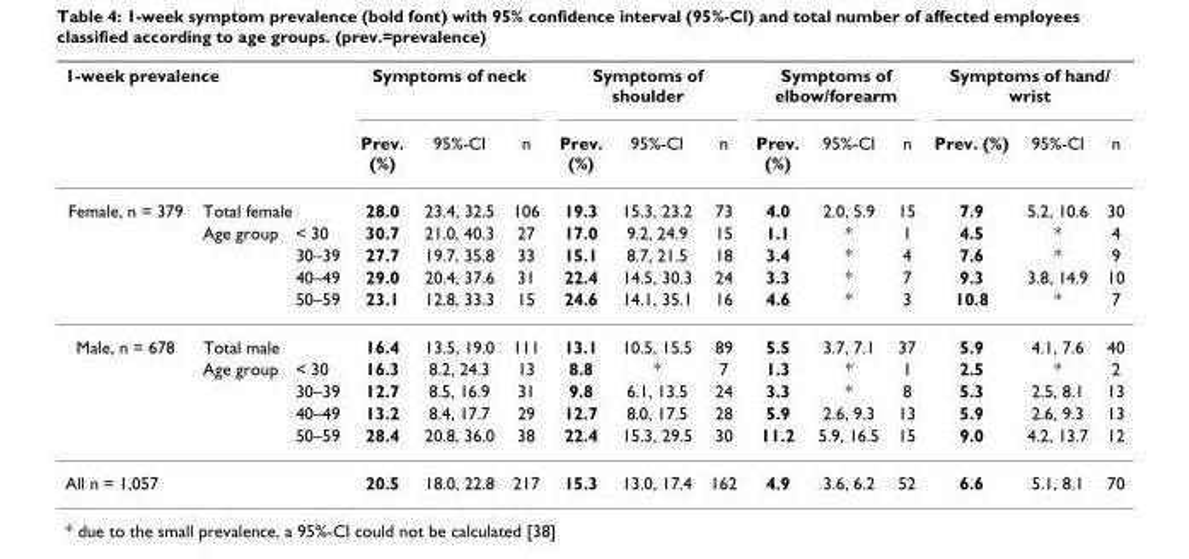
<table><thead><tr><td colspan="3">1-week prevalence</td><td colspan="3">Symptoms of neck</td><td colspan="3">Symptoms of shoulder</td><td colspan="3">Symptoms of elbow/forearm</td><td colspan="3">Symptoms of hand/ wrist</td></tr><tr><td></td><td></td><td></td><td>Prev. (%)</td><td>95%-CI</td><td>n</td><td>Prev. (%)</td><td>95%-CI</td><td>n</td><td>Prev. (%)</td><td>95%-CI</td><td>n</td><td>Prev. (%)</td><td>95%-CI</td><td>n</td></tr></thead><tbody><tr><td rowspan="5">Female, n = 379</td><td colspan="2">Total female</td><td>28.0</td><td>23.4, 32.5</td><td>106</td><td>19.3</td><td>15.3, 23.2</td><td>73</td><td>4.0</td><td>2.0, 5.9</td><td>15</td><td>7.9</td><td>5.2, 10.6</td><td>30</td></tr><tr><td>Age group</td><td>&lt; 30</td><td>30.7</td><td>21.0, 40.3</td><td>27</td><td>17.0</td><td>9.2, 24.9</td><td>15</td><td>1.1</td><td>*</td><td>1</td><td>4.5</td><td>*</td><td>4</td></tr><tr><td></td><td>30–39</td><td>27.7</td><td>19.7, 35.8</td><td>33</td><td>15.1</td><td>8.7, 21.5</td><td>18</td><td>3.4</td><td>*</td><td>4</td><td>7.6</td><td>*</td><td>9</td></tr><tr><td></td><td>40–49</td><td>29.0</td><td>20.4, 37.6</td><td>31</td><td>22.4</td><td>14.5, 30.3</td><td>24</td><td>3.3</td><td>*</td><td>7</td><td>9.3</td><td>3.8, 14.9</td><td>10</td></tr><tr><td></td><td>50–59</td><td>23.1</td><td>12.8, 33.3</td><td>15</td><td>24.6</td><td>14.1, 35.1</td><td>16</td><td>4.6</td><td>*</td><td>3</td><td>10.8</td><td>*</td><td>7</td></tr><tr><td rowspan="5">Male, n = 678</td><td colspan="2">Total male</td><td>16.4</td><td>13.5, 19.0</td><td>111</td><td>13.1</td><td>10.5, 15.5</td><td>89</td><td>5.5</td><td>3.7, 7.1</td><td>37</td><td>5.9</td><td>4.1, 7.6</td><td>40</td></tr><tr><td>Age group</td><td>&lt; 30</td><td>16.3</td><td>8.2, 24.3</td><td>13</td><td>8.8</td><td>*</td><td>7</td><td>1.3</td><td>*</td><td>1</td><td>2.5</td><td>*</td><td>2</td></tr><tr><td></td><td>30–39</td><td>12.7</td><td>8.5, 16.9</td><td>31</td><td>9.8</td><td>6.1, 13.5</td><td>24</td><td>3.3</td><td>*</td><td>8</td><td>5.3</td><td>2.5, 8.1</td><td>13</td></tr><tr><td></td><td>40–49</td><td>13.2</td><td>8.4, 17.7</td><td>29</td><td>12.7</td><td>8.0, 17.5</td><td>28</td><td>5.9</td><td>2.6, 9.3</td><td>13</td><td>5.9</td><td>2.6, 9.3</td><td>13</td></tr><tr><td></td><td>50–59</td><td>28.4</td><td>20.8, 36.0</td><td>38</td><td>22.4</td><td>15.3, 29.5</td><td>30</td><td>11.2</td><td>5.9, 16.5</td><td>15</td><td>9.0</td><td>4.2, 13.7</td><td>12</td></tr><tr><td colspan="3">All n = 1,057</td><td>20.5</td><td>18.0, 22.8</td><td>217</td><td>15.3</td><td>13.0, 17.4</td><td>162</td><td>4.9</td><td>3.6, 6.2</td><td>52</td><td>6.6</td><td>5.1, 8.1</td><td>70</td></tr></tbody></table>